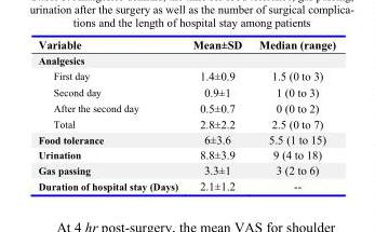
<table><thead><tr><td>Variable</td><td>Mean±SD</td><td>Median (range)</td></tr></thead><tbody><tr><td colspan="3">Analgesics</td></tr><tr><td>First day</td><td>1.4±0.9</td><td>1.5 (0 to 3)</td></tr><tr><td>Second day</td><td>0.9±1</td><td>1 (0 to 3)</td></tr><tr><td>After the second day</td><td>0.5±0.7</td><td>0 (0 to 2)</td></tr><tr><td>Total</td><td>2.8±2.2</td><td>2.5 (0 to 7)</td></tr><tr><td>Food tolerance</td><td>6±3.6</td><td>5.5 (1 to 15)</td></tr><tr><td>Urination</td><td>8.8±3.9</td><td>9 (4 to 18)</td></tr><tr><td>Gas passing</td><td>3.3±1</td><td>3 (2 to 6)</td></tr><tr><td>Duration of hospital stay (Days)</td><td>2.1±1.2</td><td>--</td></tr></tbody></table>